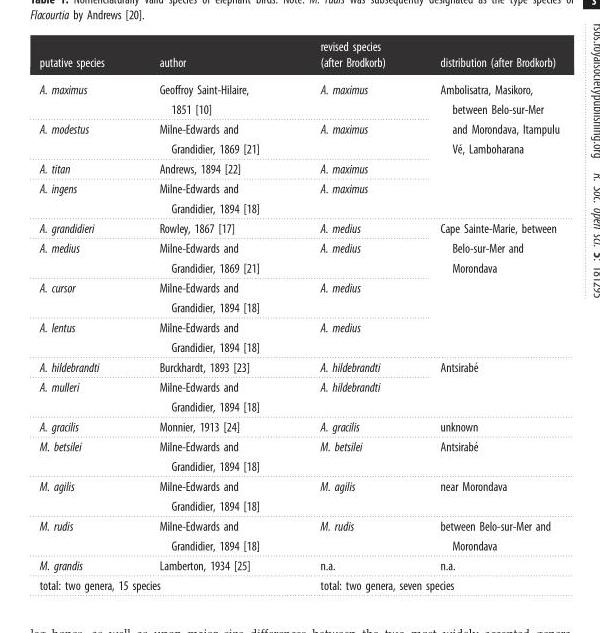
<table><thead><tr><td>putative species</td><td>author</td><td>revised species (after Brodkorb)</td><td>distribution (after Brodkorb)</td></tr></thead><tbody><tr><td>A. maximus</td><td>Geoffroy Saint-Hilaire, 1851 [10]</td><td>A. maximus</td><td rowspan="4">Ambolisatra, Masikoro, between Belo-sur-Mer and Morondava, Itampulu Ve´, Lamboharana</td></tr><tr><td>A. modestus</td><td>Milne-Edwards and Grandidier, 1869 [21]</td><td>A. maximus</td></tr><tr><td>A. titan</td><td>Andrews, 1894 [22]</td><td>A. maximus</td></tr><tr><td>A. ingens</td><td>Milne-Edwards and Grandidier, 1894 [18]</td><td>A. maximus</td></tr><tr><td>A. grandidieri</td><td>Rowley, 1867 [17]</td><td>A. medius</td><td rowspan="4">Cape Sainte-Marie, between Belo-sur-Mer and Morondava</td></tr><tr><td>A. medius</td><td>Milne-Edwards and Grandidier, 1869 [21]</td><td>A. medius</td></tr><tr><td>A. cursor</td><td>Milne-Edwards and Grandidier, 1894 [18]</td><td>A. medius</td></tr><tr><td>A. lentus</td><td>Milne-Edwards and Grandidier, 1894 [18]</td><td>A. medius</td></tr><tr><td>A. hildebrandti</td><td>Burckhardt, 1893 [23]</td><td>A. hildebrandti</td><td rowspan="2">Antsirabe´</td></tr><tr><td>A. mulleri</td><td>Milne-Edwards and Grandidier, 1894 [18]</td><td>A. hildebrandti</td></tr><tr><td>A. gracilis</td><td>Monnier, 1913 [24]</td><td>A. gracilis</td><td>unknown</td></tr><tr><td>M. betsilei</td><td>Milne-Edwards and Grandidier, 1894 [18]</td><td>M. betsilei</td><td>Antsirabe´</td></tr><tr><td>M. agilis</td><td>Milne-Edwards and Grandidier, 1894 [18]</td><td>M. agilis</td><td>near Morondava</td></tr><tr><td>M. rudis</td><td>Milne-Edwards and Grandidier, 1894 [18]</td><td>M. rudis</td><td>between Belo-sur-Mer and Morondava</td></tr><tr><td>M. grandis</td><td>Lamberton, 1934 [25]</td><td>n.a.</td><td>n.a.</td></tr><tr><td colspan="2">total: two genera, 15 species</td><td colspan="2">total: two genera, seven species</td></tr></tbody></table>